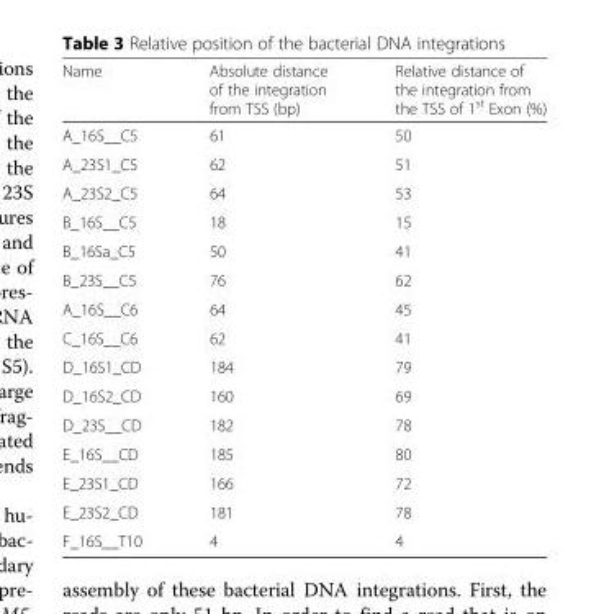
<table><thead><tr><td>Name</td><td>Absolute distance of the integration from TSS (bp)</td><td>Relative distance of the integration from the TSS of 1<sup>st</sup> Exon (%)</td></tr></thead><tbody><tr><td>A_16S__C5</td><td>61</td><td>50</td></tr><tr><td>A_23S1_C5</td><td>62</td><td>51</td></tr><tr><td>A_23S2_C5</td><td>64</td><td>53</td></tr><tr><td>B_16S__C5</td><td>18</td><td>15</td></tr><tr><td>B_16Sa_C5</td><td>50</td><td>41</td></tr><tr><td>B_23S__C5</td><td>76</td><td>62</td></tr><tr><td>A_16S__C6</td><td>64</td><td>45</td></tr><tr><td>C_16S__C6</td><td>62</td><td>41</td></tr><tr><td>D_16S1_CD</td><td>184</td><td>79</td></tr><tr><td>D_16S2_CD</td><td>160</td><td>69</td></tr><tr><td>D_23S__CD</td><td>182</td><td>78</td></tr><tr><td>E_16S__CD</td><td>185</td><td>80</td></tr><tr><td>E_23S1_CD</td><td>166</td><td>72</td></tr><tr><td>E_23S2_CD</td><td>181</td><td>78</td></tr><tr><td>F_16S__T10</td><td>4</td><td>4</td></tr></tbody></table>